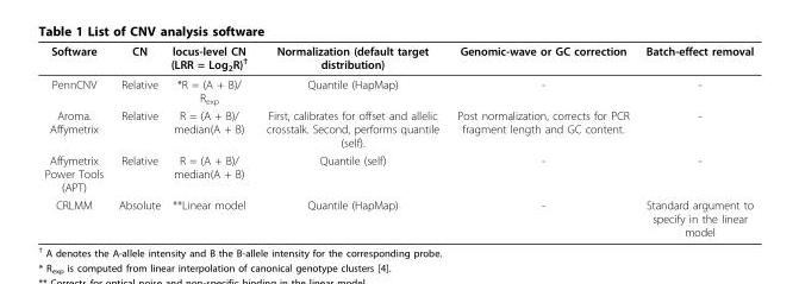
<table><thead><tr><td>Software</td><td>CN</td><td>locus-level CN (LRR = Log<sub>2</sub>R)<sup>†</sup></td><td>Normalization (default target distribution)</td><td>Genomic-wave or GC correction</td><td>Batch-effect removal</td></tr></thead><tbody><tr><td>PennCNV</td><td>Relative</td><td>*R = (A + B)/ R<sub>exp</sub></td><td>Quantile (HapMap)</td><td>-</td><td>-</td></tr><tr><td>Aroma. Affymetrix</td><td>Relative</td><td>R = (A + B)/ median(A + B)</td><td>First, calibrates for offset and allelic crosstalk. Second, performs quantile (self).</td><td>Post normalization, corrects for PCR fragment length and GC content.</td><td>-</td></tr><tr><td>Affymetrix Power Tools (APT)</td><td>Relative</td><td>R = (A + B)/ median(A + B)</td><td>Quantile (self)</td><td>-</td><td>-</td></tr><tr><td>CRLMM</td><td>Absolute</td><td>**Linear model</td><td>Quantile (HapMap)</td><td>-</td><td>Standard argument to specify in the linear model</td></tr></tbody></table>